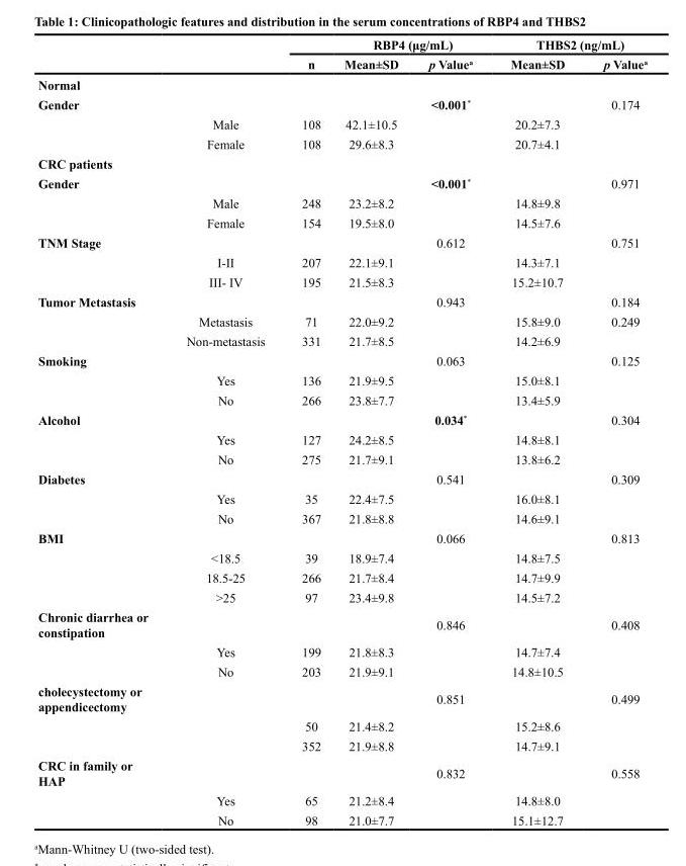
<table><thead><tr><td rowspan="2"></td><td rowspan="2"></td><td colspan="3">RBP4 (μg/mL)</td><td colspan="2">THBS2 (ng/mL)</td></tr><tr><td>n</td><td>Mean±SD</td><td>p Value<sup>a</sup></td><td>Mean±SD</td><td>p Value<sup>a</sup></td></tr></thead><tbody><tr><td colspan="7">Normal</td></tr><tr><td rowspan="3">Gender</td><td></td><td></td><td></td><td>&lt;0.001*</td><td></td><td>0.174</td></tr><tr><td>Male</td><td>108</td><td>42.1±10.5</td><td></td><td>20.2±7.3</td><td></td></tr><tr><td>Female</td><td>108</td><td>29.6±8.3</td><td></td><td>20.7±4.1</td><td></td></tr><tr><td colspan="7">CRC patients</td></tr><tr><td rowspan="3">Gender</td><td></td><td></td><td></td><td>&lt;0.001*</td><td></td><td>0.971</td></tr><tr><td>Male</td><td>248</td><td>23.2±8.2</td><td></td><td>14.8±9.8</td><td></td></tr><tr><td>Female</td><td>154</td><td>19.5±8.0</td><td></td><td>14.5±7.6</td><td></td></tr><tr><td rowspan="3">TNM Stage</td><td></td><td></td><td></td><td>0.612</td><td></td><td>0.751</td></tr><tr><td>I-II</td><td>207</td><td>22.1±9.1</td><td></td><td>14.3±7.1</td><td></td></tr><tr><td>III- IV</td><td>195</td><td>21.5±8.3</td><td></td><td>15.2±10.7</td><td></td></tr><tr><td rowspan="3">Tumor Metastasis</td><td></td><td></td><td></td><td>0.943</td><td></td><td>0.184</td></tr><tr><td>Metastasis</td><td>71</td><td>22.0±9.2</td><td></td><td>15.8±9.0</td><td>0.249</td></tr><tr><td>Non-metastasis</td><td>331</td><td>21.7±8.5</td><td></td><td>14.2±6.9</td><td></td></tr><tr><td rowspan="3">Smoking</td><td></td><td></td><td></td><td>0.063</td><td></td><td>0.125</td></tr><tr><td>Yes</td><td>136</td><td>21.9±9.5</td><td></td><td>15.0±8.1</td><td></td></tr><tr><td>No</td><td>266</td><td>23.8±7.7</td><td></td><td>13.4±5.9</td><td></td></tr><tr><td rowspan="3">Alcohol</td><td></td><td></td><td></td><td>0.034*</td><td></td><td>0.304</td></tr><tr><td>Yes</td><td>127</td><td>24.2±8.5</td><td></td><td>14.8±8.1</td><td></td></tr><tr><td>No</td><td>275</td><td>21.7±9.1</td><td></td><td>13.8±6.2</td><td></td></tr><tr><td rowspan="3">Diabetes</td><td></td><td></td><td></td><td>0.541</td><td></td><td>0.309</td></tr><tr><td>Yes</td><td>35</td><td>22.4±7.5</td><td></td><td>16.0±8.1</td><td></td></tr><tr><td>No</td><td>367</td><td>21.8±8.8</td><td></td><td>14.6±9.1</td><td></td></tr><tr><td rowspan="4">BMI</td><td></td><td></td><td></td><td>0.066</td><td></td><td>0.813</td></tr><tr><td>&lt;18.5</td><td>39</td><td>18.9±7.4</td><td></td><td>14.8±7.5</td><td></td></tr><tr><td>18.5-25</td><td>266</td><td>21.7±8.4</td><td></td><td>14.7±9.9</td><td></td></tr><tr><td>&gt;25</td><td>97</td><td>23.4±9.8</td><td></td><td>14.5±7.2</td><td></td></tr><tr><td rowspan="3">Chronic diarrhea or constipation</td><td></td><td></td><td></td><td>0.846</td><td></td><td>0.408</td></tr><tr><td>Yes</td><td>199</td><td>21.8±8.3</td><td></td><td>14.7±7.4</td><td></td></tr><tr><td>No</td><td>203</td><td>21.9±9.1</td><td></td><td>14.8±10.5</td><td></td></tr><tr><td rowspan="3">cholecystectomy or appendicectomy</td><td></td><td></td><td></td><td>0.851</td><td></td><td>0.499</td></tr><tr><td></td><td>50</td><td>21.4±8.2</td><td></td><td>15.2±8.6</td><td></td></tr><tr><td></td><td>352</td><td>21.9±8.8</td><td></td><td>14.7±9.1</td><td></td></tr><tr><td rowspan="3">CRC in family or HAP</td><td></td><td></td><td></td><td>0.832</td><td></td><td>0.558</td></tr><tr><td>Yes</td><td>65</td><td>21.2±8.4</td><td></td><td>14.8±8.0</td><td></td></tr><tr><td>No</td><td>98</td><td>21.0±7.7</td><td></td><td>15.1±12.7</td><td></td></tr></tbody></table>